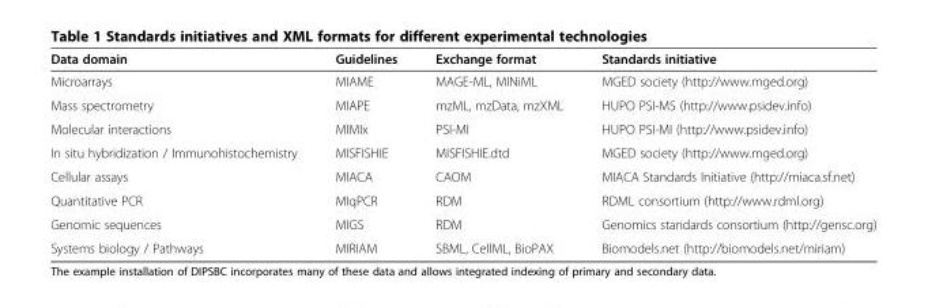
<table><thead><tr><td>Data domain</td><td>Guidelines</td><td>Exchange format</td><td>Standards initiative</td></tr></thead><tbody><tr><td>Microarrays</td><td>MIAME</td><td>MAGE-ML, MINiML</td><td>MGED society (http://www.mged.org)</td></tr><tr><td>Mass spectrometry</td><td>MIAPE</td><td>mzML, mzData, mzXML</td><td>HUPO PSI-MS (http://www.psidev.info)</td></tr><tr><td>Molecular interactions</td><td>MIMIx</td><td>PSI-MI</td><td>HUPO PSI-MI (http://www.psidev.info)</td></tr><tr><td>In situ hybridization / Immunohistochemistry</td><td>MISFISHIE</td><td>MISFISHIE.dtd</td><td>MGED society (http://www.mged.org)</td></tr><tr><td>Cellular assays</td><td>MIACA</td><td>CAOM</td><td>MIACA Standards Initiative (http://miaca.sf.net)</td></tr><tr><td>Quantitative PCR</td><td>MIqPCR</td><td>RDM</td><td>RDML consortium (http://www.rdml.org)</td></tr><tr><td>Genomic sequences</td><td>MIGS</td><td>RDM</td><td>Genomics standards consortium (http://gensc.org)</td></tr><tr><td>Systems biology / Pathways</td><td>MIRIAM</td><td>SBML, CellML, BioPAX</td><td>Biomodels.net (http://biomodels.net/miriam)</td></tr></tbody></table>